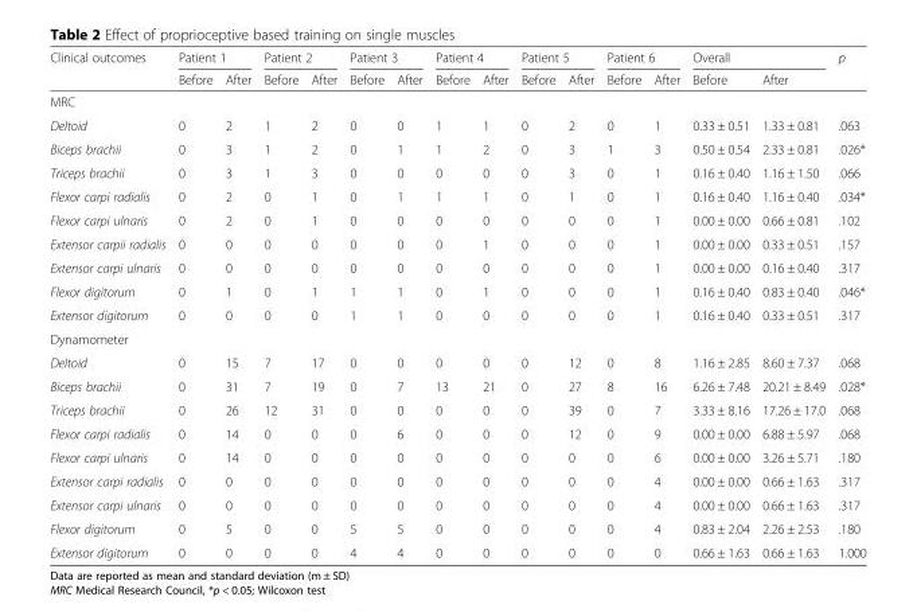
<table><thead><tr><td rowspan="2">Clinical outcomes</td><td colspan="2">Patient 1</td><td colspan="2">Patient 2</td><td colspan="2">Patient 3</td><td colspan="2">Patient 4</td><td colspan="2">Patient 5</td><td colspan="2">Patient 6</td><td colspan="2">Overall</td><td rowspan="2">p</td></tr><tr><td>Before</td><td>After</td><td>Before</td><td>After</td><td>Before</td><td>After</td><td>Before</td><td>After</td><td>Before</td><td>After</td><td>Before</td><td>After</td><td>Before</td><td>After</td></tr></thead><tbody><tr><td colspan="16">MRC</td></tr><tr><td>Deltoid</td><td>0</td><td>2</td><td>1</td><td>2</td><td>0</td><td>0</td><td>1</td><td>1</td><td>0</td><td>2</td><td>0</td><td>1</td><td>0.33 ± 0.51</td><td>1.33 ± 0.81</td><td>.063</td></tr><tr><td>Biceps brachii</td><td>0</td><td>3</td><td>1</td><td>2</td><td>0</td><td>1</td><td>1</td><td>2</td><td>0</td><td>3</td><td>1</td><td>3</td><td>0.50 ± 0.54</td><td>2.33 ± 0.81</td><td>.026*</td></tr><tr><td>Triceps brachii</td><td>0</td><td>3</td><td>1</td><td>3</td><td>0</td><td>0</td><td>0</td><td>0</td><td>0</td><td>3</td><td>0</td><td>1</td><td>0.16 ± 0.40</td><td>1.16 ± 1.50</td><td>.066</td></tr><tr><td>Flexor carpi radialis</td><td>0</td><td>2</td><td>0</td><td>1</td><td>0</td><td>1</td><td>1</td><td>1</td><td>0</td><td>1</td><td>0</td><td>1</td><td>0.16 ± 0.40</td><td>1.16 ± 0.40</td><td>.034*</td></tr><tr><td>Flexor carpi ulnaris</td><td>0</td><td>2</td><td>0</td><td>1</td><td>0</td><td>0</td><td>0</td><td>0</td><td>0</td><td>0</td><td>0</td><td>1</td><td>0.00 ± 0.00</td><td>0.66 ± 0.81</td><td>.102</td></tr><tr><td>Extensor carpii radialis</td><td>0</td><td>0</td><td>0</td><td>0</td><td>0</td><td>0</td><td>0</td><td>1</td><td>0</td><td>0</td><td>0</td><td>1</td><td>0.00 ± 0.00</td><td>0.33 ± 0.51</td><td>.157</td></tr><tr><td>Extensor carpi ulnaris</td><td>0</td><td>0</td><td>0</td><td>0</td><td>0</td><td>0</td><td>0</td><td>0</td><td>0</td><td>0</td><td>0</td><td>1</td><td>0.00 ± 0.00</td><td>0.16 ± 0.40</td><td>.317</td></tr><tr><td>Flexor digitorum</td><td>0</td><td>1</td><td>0</td><td>1</td><td>1</td><td>1</td><td>0</td><td>1</td><td>0</td><td>0</td><td>0</td><td>1</td><td>0.16 ± 0.40</td><td>0.83 ± 0.40</td><td>.046*</td></tr><tr><td>Extensor digitorum</td><td>0</td><td>0</td><td>0</td><td>0</td><td>1</td><td>1</td><td>0</td><td>0</td><td>0</td><td>0</td><td>0</td><td>1</td><td>0.16 ± 0.40</td><td>0.33 ± 0.51</td><td>.317</td></tr><tr><td colspan="16">Dynamometer</td></tr><tr><td>Deltoid</td><td>0</td><td>15</td><td>7</td><td>17</td><td>0</td><td>0</td><td>0</td><td>0</td><td>0</td><td>12</td><td>0</td><td>8</td><td>1.16 ± 2.85</td><td>8.60 ± 7.37</td><td>.068</td></tr><tr><td>Biceps brachii</td><td>0</td><td>31</td><td>7</td><td>19</td><td>0</td><td>7</td><td>13</td><td>21</td><td>0</td><td>27</td><td>8</td><td>16</td><td>6.26 ± 7.48</td><td>20.21 ± 8.49</td><td>.028*</td></tr><tr><td>Triceps brachii</td><td>0</td><td>26</td><td>12</td><td>31</td><td>0</td><td>0</td><td>0</td><td>0</td><td>0</td><td>39</td><td>0</td><td>7</td><td>3.33 ± 8.16</td><td>17.26 ± 17.0</td><td>.068</td></tr><tr><td>Flexor carpi radialis</td><td>0</td><td>14</td><td>0</td><td>0</td><td>0</td><td>6</td><td>0</td><td>0</td><td>0</td><td>12</td><td>0</td><td>9</td><td>0.00 ± 0.00</td><td>6.88 ± 5.97</td><td>.068</td></tr><tr><td>Flexor carpi ulnaris</td><td>0</td><td>14</td><td>0</td><td>0</td><td>0</td><td>0</td><td>0</td><td>0</td><td>0</td><td>0</td><td>0</td><td>6</td><td>0.00 ± 0.00</td><td>3.26 ± 5.71</td><td>.180</td></tr><tr><td>Extensor carpi radialis</td><td>0</td><td>0</td><td>0</td><td>0</td><td>0</td><td>0</td><td>0</td><td>0</td><td>0</td><td>0</td><td>0</td><td>4</td><td>0.00 ± 0.00</td><td>0.66 ± 1.63</td><td>.317</td></tr><tr><td>Extensor carpi ulnaris</td><td>0</td><td>0</td><td>0</td><td>0</td><td>0</td><td>0</td><td>0</td><td>0</td><td>0</td><td>0</td><td>0</td><td>4</td><td>0.00 ± 0.00</td><td>0.66 ± 1.63</td><td>.317</td></tr><tr><td>Flexor digitorum</td><td>0</td><td>5</td><td>0</td><td>0</td><td>5</td><td>5</td><td>0</td><td>0</td><td>0</td><td>0</td><td>0</td><td>4</td><td>0.83 ± 2.04</td><td>2.26 ± 2.53</td><td>.180</td></tr><tr><td>Extensor digitorum</td><td>0</td><td>0</td><td>0</td><td>0</td><td>4</td><td>4</td><td>0</td><td>0</td><td>0</td><td>0</td><td>0</td><td>0</td><td>0.66 ± 1.63</td><td>0.66 ± 1.63</td><td>1.000</td></tr></tbody></table>